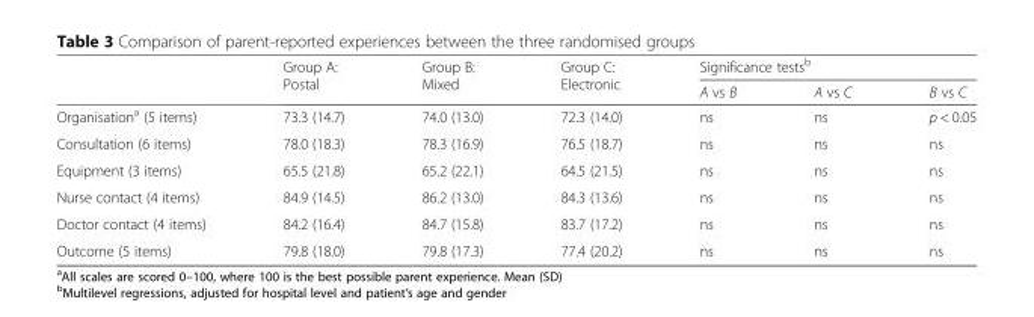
<table><thead><tr><td rowspan="2"></td><td rowspan="2">Group A: Postal</td><td rowspan="2">Group B: Mixed</td><td rowspan="2">Group C: Electronic</td><td colspan="3">Significance tests<sup>b</sup></td></tr><tr><td>A vs B</td><td>A vs C</td><td>B vs C</td></tr></thead><tbody><tr><td>Organisation<sup>a</sup> (5 items)</td><td>73.3 (14.7)</td><td>74.0 (13.0)</td><td>72.3 (14.0)</td><td>ns</td><td>ns</td><td>p &lt; 0.05</td></tr><tr><td>Consultation (6 items)</td><td>78.0 (18.3)</td><td>78.3 (16.9)</td><td>76.5 (18.7)</td><td>ns</td><td>ns</td><td>ns</td></tr><tr><td>Equipment (3 items)</td><td>65.5 (21.8)</td><td>65.2 (22.1)</td><td>64.5 (21.5)</td><td>ns</td><td>ns</td><td>ns</td></tr><tr><td>Nurse contact (4 items)</td><td>84.9 (14.5)</td><td>86.2 (13.0)</td><td>84.3 (13.6)</td><td>ns</td><td>ns</td><td>ns</td></tr><tr><td>Doctor contact (4 items)</td><td>84.2 (16.4)</td><td>84.7 (15.8)</td><td>83.7 (17.2)</td><td>ns</td><td>ns</td><td>ns</td></tr><tr><td>Outcome (5 items)</td><td>79.8 (18.0)</td><td>79.8 (17.3)</td><td>77.4 (20.2)</td><td>ns</td><td>ns</td><td>ns</td></tr></tbody></table>